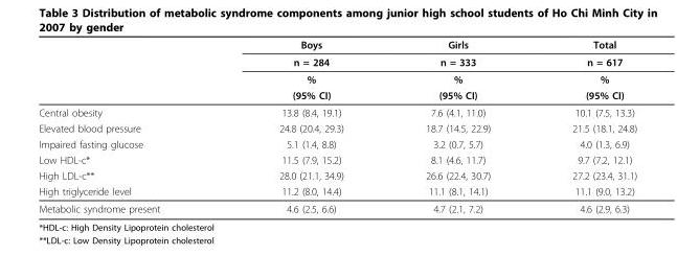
<table><thead><tr><td rowspan="4"></td><td rowspan="4">Boys n = 284 % (95% CI)</td><td rowspan="4">Girls n = 333 % (95% CI)</td><td rowspan="4">Total n = 617 % (95% CI)</td></tr><tr></tr><tr></tr><tr></tr></thead><tbody><tr><td>Central obesity</td><td>13.8 (8.4, 19.1)</td><td>7.6 (4.1, 11.0)</td><td>10.1 (7.5, 13.3)</td></tr><tr><td>Elevated blood pressure</td><td>24.8 (20.4, 29.3)</td><td>18.7 (14.5, 22.9)</td><td>21.5 (18.1, 24.8)</td></tr><tr><td>Impaired fasting glucose</td><td>5.1 (1.4, 8.8)</td><td>3.2 (0.7, 5.7)</td><td>4.0 (1.3, 6.9)</td></tr><tr><td>Low HDL-c*</td><td>11.5 (7.9, 15.2)</td><td>8.1 (4.6, 11.7)</td><td>9.7 (7.2, 12.1)</td></tr><tr><td>High LDL-c**</td><td>28.0 (21.1, 34.9)</td><td>26.6 (22.4, 30.7)</td><td>27.2 (23.4, 31.1)</td></tr><tr><td>High triglyceride level</td><td>11.2 (8.0, 14.4)</td><td>11.1 (8.1, 14.1)</td><td>11.1 (9.0, 13.2)</td></tr><tr><td>Metabolic syndrome present</td><td>4.6 (2.5, 6.6)</td><td>4.7 (2.1, 7.2)</td><td>4.6 (2.9, 6.3)</td></tr></tbody></table>